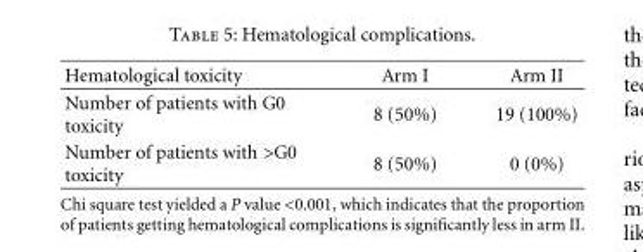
<table><thead><tr><td>Hematological toxicity</td><td>Arm I</td><td>Arm II</td></tr></thead><tbody><tr><td>Number of patients with G0 toxicity</td><td>8 (50%)</td><td>19 (100%)</td></tr><tr><td>Number of patients with &gt;G0 toxicity</td><td>8 (50%)</td><td>0 (0%)</td></tr></tbody></table>